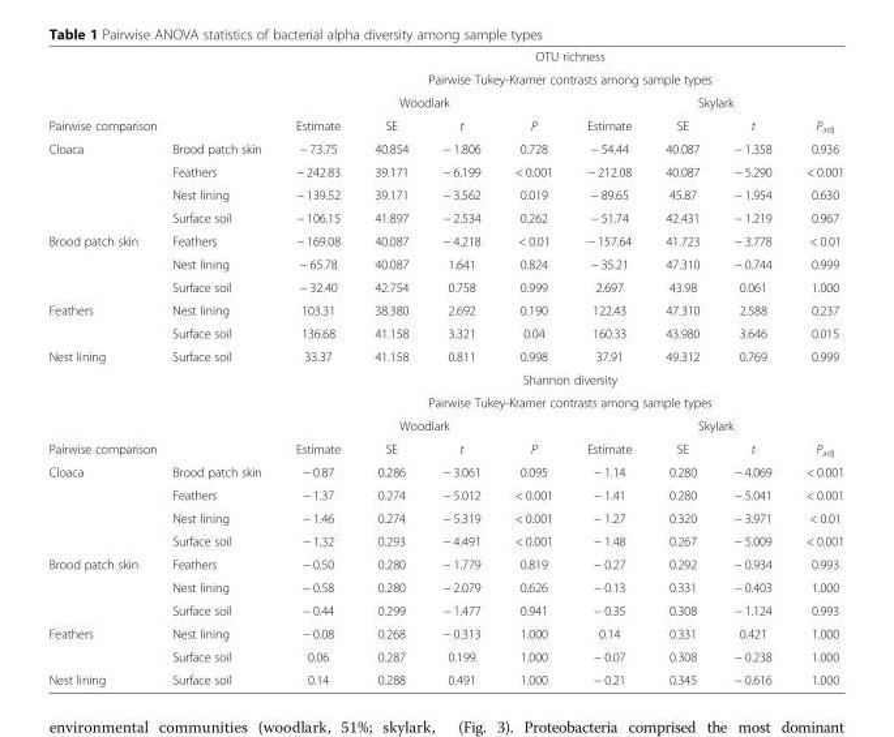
<table><thead><tr><td rowspan="3"></td><td rowspan="3"></td><td rowspan="2" colspan="8">OTU richness Pairwise Tukey-Kramer contrasts among sample types</td></tr><tr></tr><tr><td colspan="4">Woodlark</td><td colspan="4">Skylark</td></tr><tr><td colspan="2">Pairwise comparison</td><td>Estimate</td><td>SE</td><td>t</td><td>P</td><td>Estimate</td><td>SE</td><td>t</td><td>P<sub>adj</sub></td></tr></thead><tbody><tr><td rowspan="4">Cloaca</td><td>Brood patch skin</td><td>− 73.75</td><td>40.854</td><td>− 1.806</td><td>0.728</td><td>− 54.44</td><td>40.087</td><td>− 1.358</td><td>0.936</td></tr><tr><td>Feathers</td><td>− 242.83</td><td>39.171</td><td>− 6.199</td><td>&lt; 0.001</td><td>− 212.08</td><td>40.087</td><td>− 5.290</td><td>&lt; 0.001</td></tr><tr><td>Nest lining</td><td>− 139.52</td><td>39.171</td><td>− 3.562</td><td>0.019</td><td>− 89.65</td><td>45.87</td><td>− 1.954</td><td>0.630</td></tr><tr><td>Surface soil</td><td>− 106.15</td><td>41.897</td><td>− 2.534</td><td>0.262</td><td>− 51.74</td><td>42.431</td><td>− 1.219</td><td>0.967</td></tr><tr><td rowspan="3">Brood patch skin</td><td>Feathers</td><td>− 169.08</td><td>40.087</td><td>− 4.218</td><td>&lt; 0.01</td><td>− 157.64</td><td>41.723</td><td>− 3.778</td><td>&lt; 0.01</td></tr><tr><td>Nest lining</td><td>− 65.78</td><td>40.087</td><td>1.641</td><td>0.824</td><td>− 35.21</td><td>47.310</td><td>− 0.744</td><td>0.999</td></tr><tr><td>Surface soil</td><td>− 32.40</td><td>42.754</td><td>0.758</td><td>0.999</td><td>2.697</td><td>43.98</td><td>0.061</td><td>1.000</td></tr><tr><td rowspan="2">Feathers</td><td>Nest lining</td><td>103.31</td><td>38.380</td><td>2.692</td><td>0.190</td><td>122.43</td><td>47.310</td><td>2.588</td><td>0.237</td></tr><tr><td>Surface soil</td><td>136.68</td><td>41.158</td><td>3.321</td><td>0.04</td><td>160.33</td><td>43.980</td><td>3.646</td><td>0.015</td></tr><tr><td>Nest lining</td><td>Surface soil</td><td>33.37</td><td>41.158</td><td>0.811</td><td>0.998</td><td>37.91</td><td>49.312</td><td>0.769</td><td>0.999</td></tr><tr><td rowspan="3" colspan="2"></td><td colspan="8">Shannon diversity</td></tr><tr><td colspan="8">Pairwise Tukey-Kramer contrasts among sample types</td></tr><tr><td colspan="4">Woodlark</td><td colspan="4">Skylark</td></tr><tr><td colspan="2">Pairwise comparison</td><td>Estimate</td><td>SE</td><td>t</td><td>P</td><td>Estimate</td><td>SE</td><td>t</td><td>P<sub>adj</sub></td></tr><tr><td rowspan="4">Cloaca</td><td>Brood patch skin</td><td>− 0.87</td><td>0.286</td><td>− 3.061</td><td>0.095</td><td>− 1.14</td><td>0.280</td><td>− 4.069</td><td>&lt; 0.001</td></tr><tr><td>Feathers</td><td>− 1.37</td><td>0.274</td><td>− 5.012</td><td>&lt; 0.001</td><td>− 1.41</td><td>0.280</td><td>− 5.041</td><td>&lt; 0.001</td></tr><tr><td>Nest lining</td><td>− 1.46</td><td>0.274</td><td>− 5.319</td><td>&lt; 0.001</td><td>− 1.27</td><td>0.320</td><td>− 3.971</td><td>&lt; 0.01</td></tr><tr><td>Surface soil</td><td>− 1.32</td><td>0.293</td><td>− 4.491</td><td>&lt; 0.001</td><td>− 1.48</td><td>0.267</td><td>− 5.009</td><td>&lt; 0.001</td></tr><tr><td rowspan="3">Brood patch skin</td><td>Feathers</td><td>− 0.50</td><td>0.280</td><td>− 1.779</td><td>0.819</td><td>− 0.27</td><td>0.292</td><td>− 0.934</td><td>0.993</td></tr><tr><td>Nest lining</td><td>− 0.58</td><td>0.280</td><td>− 2.079</td><td>0.626</td><td>− 0.13</td><td>0.331</td><td>− 0.403</td><td>1.000</td></tr><tr><td>Surface soil</td><td>− 0.44</td><td>0.299</td><td>− 1.477</td><td>0.941</td><td>− 0.35</td><td>0.308</td><td>− 1.124</td><td>0.993</td></tr><tr><td rowspan="2">Feathers</td><td>Nest lining</td><td>− 0.08</td><td>0.268</td><td>− 0.313</td><td>1.000</td><td>0.14</td><td>0.331</td><td>0.421</td><td>1.000</td></tr><tr><td>Surface soil</td><td>0.06</td><td>0.287</td><td>0.199</td><td>1.000</td><td>− 0.07</td><td>0.308</td><td>− 0.238</td><td>1.000</td></tr><tr><td>Nest lining</td><td>Surface soil</td><td>0.14</td><td>0.288</td><td>0.491</td><td>1.000</td><td>− 0.21</td><td>0.345</td><td>− 0.616</td><td>1.000</td></tr></tbody></table>